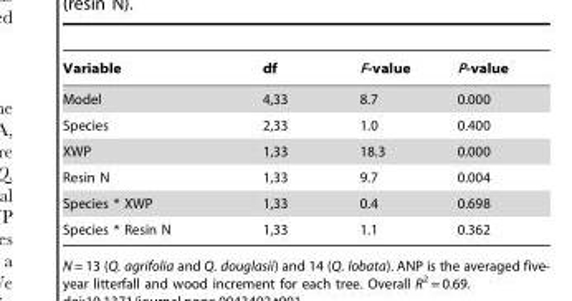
<table><thead><tr><td>Variable</td><td>df</td><td>F-value</td><td>P-value</td></tr></thead><tbody><tr><td>Model</td><td>4,33</td><td>8.7</td><td>0.000</td></tr><tr><td>Species</td><td>2,33</td><td>1.0</td><td>0.400</td></tr><tr><td>XWP</td><td>1,33</td><td>18.3</td><td>0.000</td></tr><tr><td>Resin N</td><td>1,33</td><td>9.7</td><td>0.004</td></tr><tr><td>Species * XWP</td><td>1,33</td><td>0.4</td><td>0.698</td></tr><tr><td>Species * Resin N</td><td>1,33</td><td>1.1</td><td>0.362</td></tr></tbody></table>